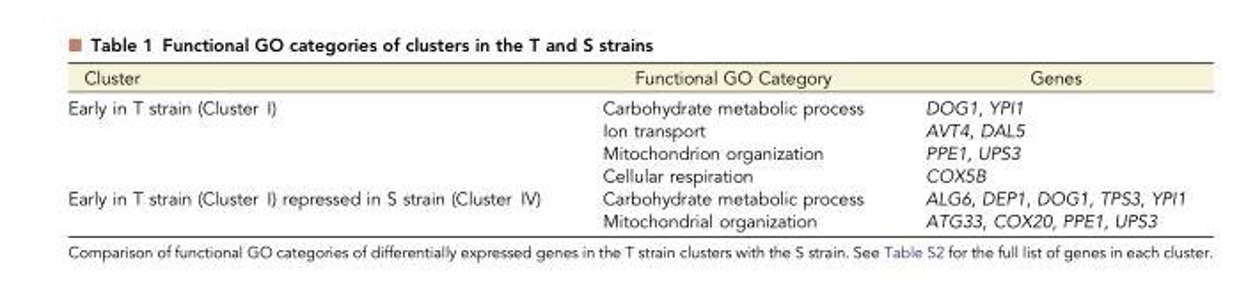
<table><thead><tr><td>Cluster</td><td>Functional GO Category</td><td>Genes</td></tr></thead><tbody><tr><td rowspan="4">Early in T strain (Cluster I)</td><td>Carbohydrate metabolic process</td><td>DOG1, YPI1</td></tr><tr><td>Ion transport</td><td>AVT4, DAL5</td></tr><tr><td>Mitochondrion organization</td><td>PPE1, UPS3</td></tr><tr><td>Cellular respiration</td><td>COX5B</td></tr><tr><td rowspan="2">Early in T strain (Cluster I) repressed in S strain (Cluster IV)</td><td>Carbohydrate metabolic process</td><td>ALG6, DEP1, DOG1, TPS3, YPI1</td></tr><tr><td>Mitochondrial organization</td><td>ATG33, COX20, PPE1, UPS3</td></tr></tbody></table>